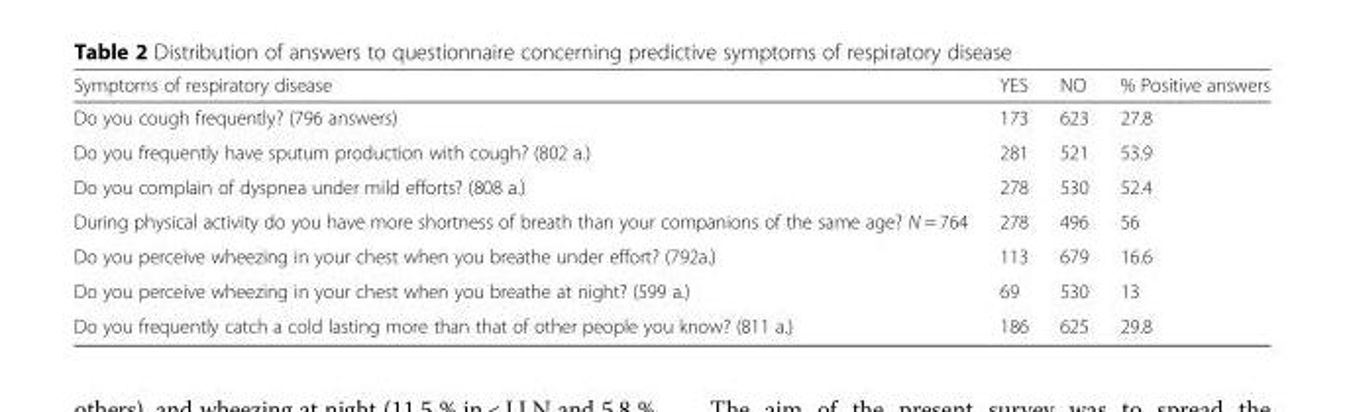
<table><thead><tr><td>Symptoms of respiratory disease</td><td>YES</td><td>NO</td><td>% Positive answers</td></tr></thead><tbody><tr><td>Do you cough frequently? (796 answers)</td><td>173</td><td>623</td><td>27.8</td></tr><tr><td>Do you frequently have sputum production with cough? (802 a.)</td><td>281</td><td>521</td><td>53.9</td></tr><tr><td>Do you complain of dyspnea under mild efforts? (808 a.)</td><td>278</td><td>530</td><td>52.4</td></tr><tr><td>During physical activity do you have more shortness of breath than your companions of the same age? N = 764</td><td>278</td><td>496</td><td>56</td></tr><tr><td>Do you perceive wheezing in your chest when you breathe under effort? (792a.)</td><td>113</td><td>679</td><td>16.6</td></tr><tr><td>Do you perceive wheezing in your chest when you breathe at night? (599 a.)</td><td>69</td><td>530</td><td>13</td></tr><tr><td>Do you frequently catch a cold lasting more than that of other people you know? (811 a.)</td><td>186</td><td>625</td><td>29.8</td></tr></tbody></table>